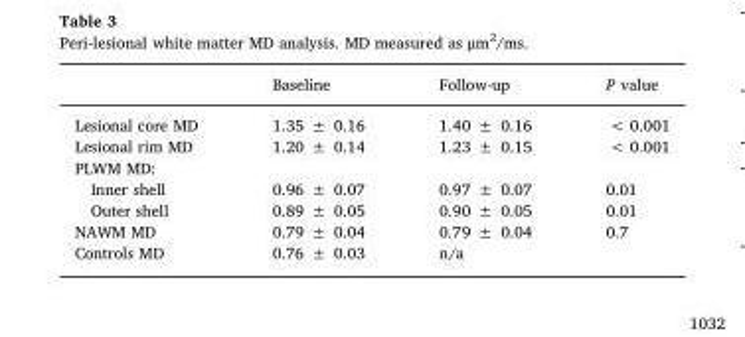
<table><thead><tr><td></td><td>Baseline</td><td>Follow-up</td><td>P value</td></tr></thead><tbody><tr><td>Lesional core MD</td><td>1.35 ± 0.16</td><td>1.40 ± 0.16</td><td>&lt; 0.001</td></tr><tr><td>Lesional rim MD</td><td>1.20 ± 0.14</td><td>1.23 ± 0.15</td><td>&lt; 0.001</td></tr><tr><td colspan="4">PLWM MD:</td></tr><tr><td>Inner shell</td><td>0.96 ± 0.07</td><td>0.97 ± 0.07</td><td>0.01</td></tr><tr><td>Outer shell</td><td>0.89 ± 0.05</td><td>0.90 ± 0.05</td><td>0.01</td></tr><tr><td>NAWM MD</td><td>0.79 ± 0.04</td><td>0.79 ± 0.04</td><td>0.7</td></tr><tr><td>Controls MD</td><td>0.76 ± 0.03</td><td>n/a</td><td></td></tr></tbody></table>